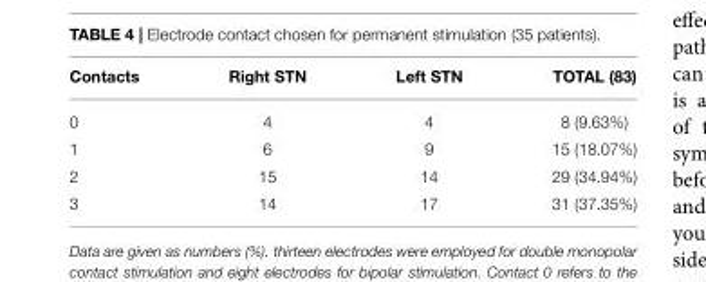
<table><thead><tr><td>Contacts</td><td>Right STN</td><td>Left STN</td><td>TOTAL (83)</td></tr></thead><tbody><tr><td>0</td><td>4</td><td>4</td><td>8 (9.63%)</td></tr><tr><td>1</td><td>6</td><td>9</td><td>15 (18.07%)</td></tr><tr><td>2</td><td>15</td><td>14</td><td>29 (34.94%)</td></tr><tr><td>3</td><td>14</td><td>17</td><td>31 (37.35%)</td></tr></tbody></table>